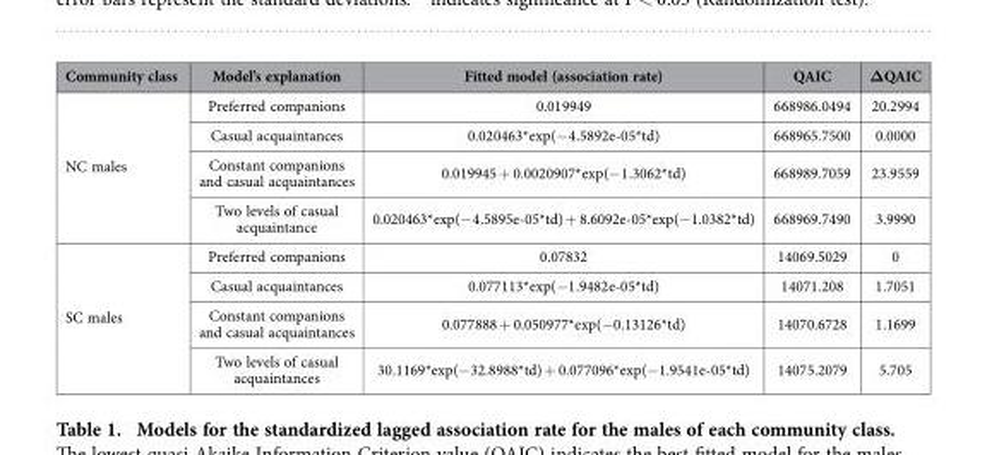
<table><thead><tr><td>Community class</td><td>Model’s explanation</td><td>Fitted model (association rate)</td><td>QAIC</td><td>ΔQAIC</td></tr></thead><tbody><tr><td rowspan="4">NC males</td><td>Preferred companions</td><td>0.019949</td><td>668986.0494</td><td>20.2994</td></tr><tr><td>Casual acquaintances</td><td>0.020463*exp(− 4.5892e-05*td)</td><td>668965.7500</td><td>0.0000</td></tr><tr><td>Constant companions and casual acquaintances</td><td>0.019945 + 0.0020907*exp(− 1.3062*td)</td><td>668989.7059</td><td>23.9559</td></tr><tr><td>Two levels of casual acquaintance</td><td>0.020463*exp(− 4.5895e-05*td) + 8.6092e-05*exp(−1.0382*td)</td><td>668969.7490</td><td>3.9990</td></tr><tr><td rowspan="4">SC males</td><td>Preferred companions</td><td>0.07832</td><td>14069.5029</td><td>0</td></tr><tr><td>Casual acquaintances</td><td>0.077113*exp(−1.9482e-05*td)</td><td>14071.208</td><td>1.7051</td></tr><tr><td>Constant companions and casual acquaintances</td><td>0.077888 + 0.050977*exp(−0.13126*td)</td><td>14070.6728</td><td>1.1699</td></tr><tr><td>Two levels of casual acquaintances</td><td>30.1169*exp(−32.8988*td) + 0.077096*exp(−1.9541e-05*td)</td><td>14075.2079</td><td>5.705</td></tr></tbody></table>